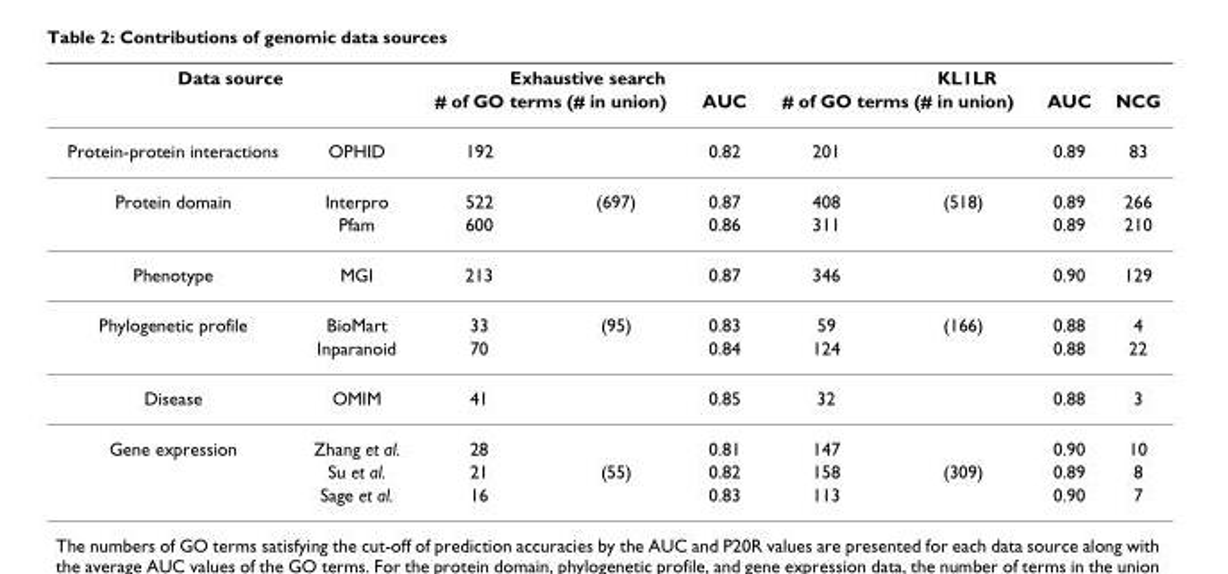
<table><thead><tr><td colspan="2">Data source</td><td colspan="3">Exhaustive search</td><td colspan="4">KL1LR</td></tr><tr><td rowspan="2">Protein-protein interactions</td><td rowspan="2">OPHID</td><td colspan="2"># of GO terms (# in union)</td><td rowspan="2">AUC 0.82</td><td colspan="2"># of GO terms (# in union)</td><td rowspan="2">AUC 0.89</td><td rowspan="2">NCG 83</td></tr><tr><td>192</td><td></td><td>201</td><td></td></tr></thead><tbody><tr><td rowspan="2">Protein domain</td><td>Interpro</td><td>522</td><td>(697)</td><td>0.87</td><td>408</td><td>(518)</td><td>0.89</td><td>266</td></tr><tr><td>Pfam</td><td>600</td><td></td><td>0.86</td><td>311</td><td></td><td>0.89</td><td>210</td></tr><tr><td>Phenotype</td><td>MGI</td><td>213</td><td></td><td>0.87</td><td>346</td><td></td><td>0.90</td><td>129</td></tr><tr><td rowspan="2">Phylogenetic profile</td><td>BioMart</td><td>33</td><td>(95)</td><td>0.83</td><td>59</td><td>(166)</td><td>0.88</td><td>4</td></tr><tr><td>Inparanoid</td><td>70</td><td></td><td>0.84</td><td>124</td><td></td><td>0.88</td><td>22</td></tr><tr><td>Disease</td><td>OMIM</td><td>41</td><td></td><td>0.85</td><td>32</td><td></td><td>0.88</td><td>3</td></tr><tr><td rowspan="3">Gene expression</td><td>Zhang et al.</td><td>28</td><td></td><td>0.81</td><td>147</td><td></td><td>0.90</td><td>10</td></tr><tr><td>Su et al.</td><td>21</td><td>(55)</td><td>0.82</td><td>158</td><td>(309)</td><td>0.89</td><td>8</td></tr><tr><td>Sage et al.</td><td>16</td><td></td><td>0.83</td><td>113</td><td></td><td>0.90</td><td>7</td></tr></tbody></table>